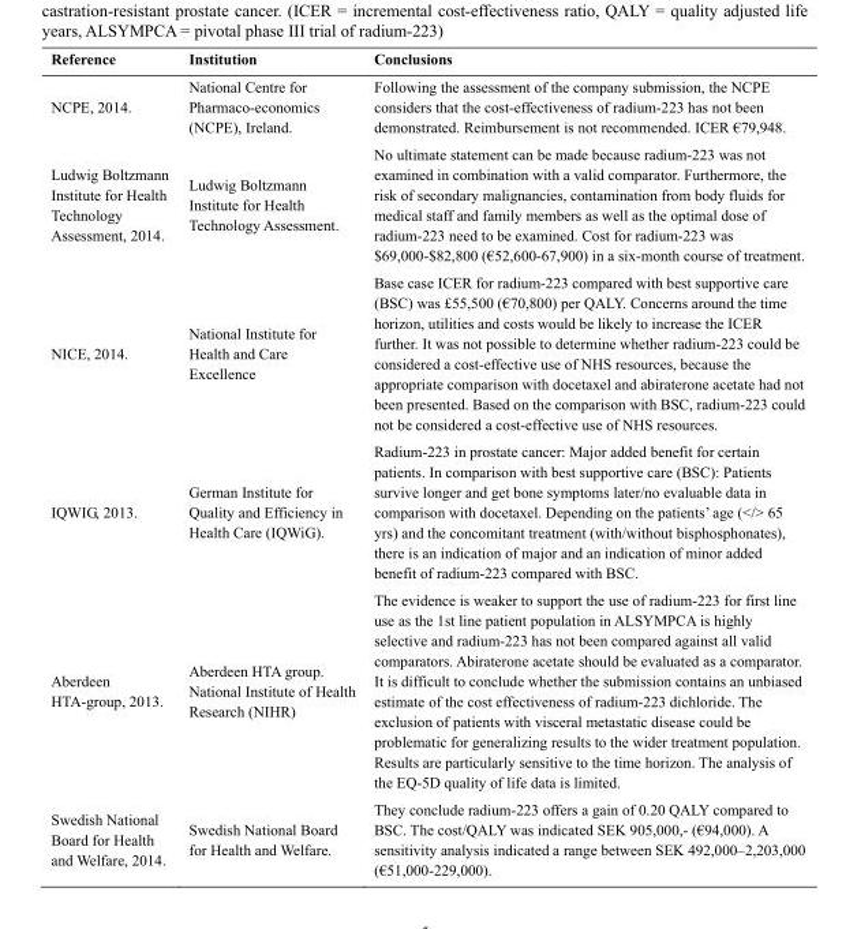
<table><thead><tr><td>Reference</td><td>Institution</td><td>Conclusions</td></tr></thead><tbody><tr><td>NCPE, 2014.</td><td>National Centre for Pharmaco-economics (NCPE), Ireland.</td><td>Following the assessment of the company submission, the NCPE considers that the cost-effectiveness of radium-223 has not been demonstrated. Reimbursement is not recommended. ICER €79,948.</td></tr><tr><td>Ludwig Boltzmann Institute for Health Technology Assessment, 2014.</td><td>Ludwig Boltzmann Institute for Health Technology Assessment.</td><td>No ultimate statement can be made because radium-223 was not examined in combination with a valid comparator. Furthermore, the risk of secondary malignancies, contamination from body fluids for medical staff and family members as well as the optimal dose of radium-223 need to be examined. Cost for radium-223 was $69,000-$82,800 (€52,600-67,900) in a six-month course of treatment.</td></tr><tr><td>NICE, 2014.</td><td>National Institute for Health and Care Excellence</td><td>Base case ICER for radium-223 compared with best supportive care (BSC) was £55,500 (€70,800) per QALY. Concerns around the time horizon, utilities and costs would be likely to increase the ICER further. It was not possible to determine whether radium-223 could be considered a cost-effective use of NHS resources, because the appropriate comparison with docetaxel and abiraterone acetate had not been presented. Based on the comparison with BSC, radium-223 could not be considered a cost-effective use of NHS resources.</td></tr><tr><td>IQWIG, 2013.</td><td>German Institute for Quality and Efficiency in Health Care (IQWiG).</td><td>Radium-223 in prostate cancer: Major added benefit for certain patients. In comparison with best supportive care (BSC): Patients survive longer and get bone symptoms later/no evaluable data in comparison with docetaxel. Depending on the patients’ age (&lt;/&gt; 65 yrs) and the concomitant treatment (with/without bisphosphonates), there is an indication of major and an indication of minor added benefit of radium-223 compared with BSC.</td></tr><tr><td>Aberdeen HTA-group, 2013.</td><td>Aberdeen HTA group. National Institute of Health Research (NIHR)</td><td>The evidence is weaker to support the use of radium-223 for first line use as the 1st line patient population in ALSYMPCA is highly selective and radium-223 has not been compared against all valid comparators. Abiraterone acetate should be evaluated as a comparator. It is difficult to conclude whether the submission contains an unbiased estimate of the cost effectiveness of radium-223 dichloride. The exclusion of patients with visceral metastatic disease could be problematic for generalizing results to the wider treatment population. Results are particularly sensitive to the time horizon. The analysis of the EQ-5D quality of life data is limited.</td></tr><tr><td>Swedish National Board for Health and Welfare, 2014.</td><td>Swedish National Board for Health and Welfare.</td><td>They conclude radium-223 offers a gain of 0.20 QALY compared to BSC. The cost/QALY was indicated SEK 905,000,- (€94,000). A sensitivity analysis indicated a range between SEK 492,000–2,203,000 (€51,000-229,000).</td></tr></tbody></table>